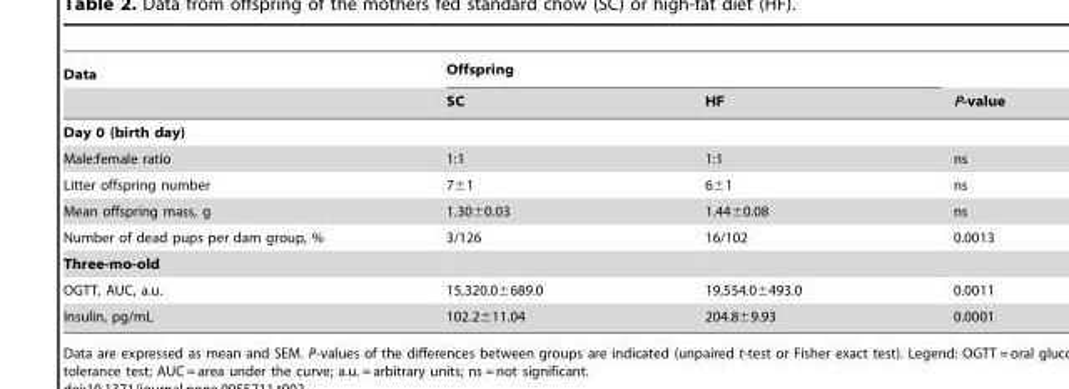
<table><thead><tr><td rowspan="2">Data</td><td colspan="2">Offspring</td><td rowspan="2">P-value</td></tr><tr><td>SC</td><td>HF</td></tr></thead><tbody><tr><td colspan="4">Day 0 (birth day)</td></tr><tr><td>Male:female ratio</td><td>1:1</td><td>1:1</td><td>ns</td></tr><tr><td>Litter offspring number</td><td>7±1</td><td>6±1</td><td>ns</td></tr><tr><td>Mean offspring mass, g</td><td>1.30±0.03</td><td>1.44±0.08</td><td>ns</td></tr><tr><td>Number of dead pups per dam group, %</td><td>3/126</td><td>16/102</td><td>0.0013</td></tr><tr><td colspan="4">Three-mo-old</td></tr><tr><td>OGTT, AUC, a.u.</td><td>15,320.0±689.0</td><td>19,554.0±493.0</td><td>0.0011</td></tr><tr><td>Insulin, pg/mL</td><td>102.2±11.04</td><td>204.8±9.93</td><td>0.0001</td></tr></tbody></table>